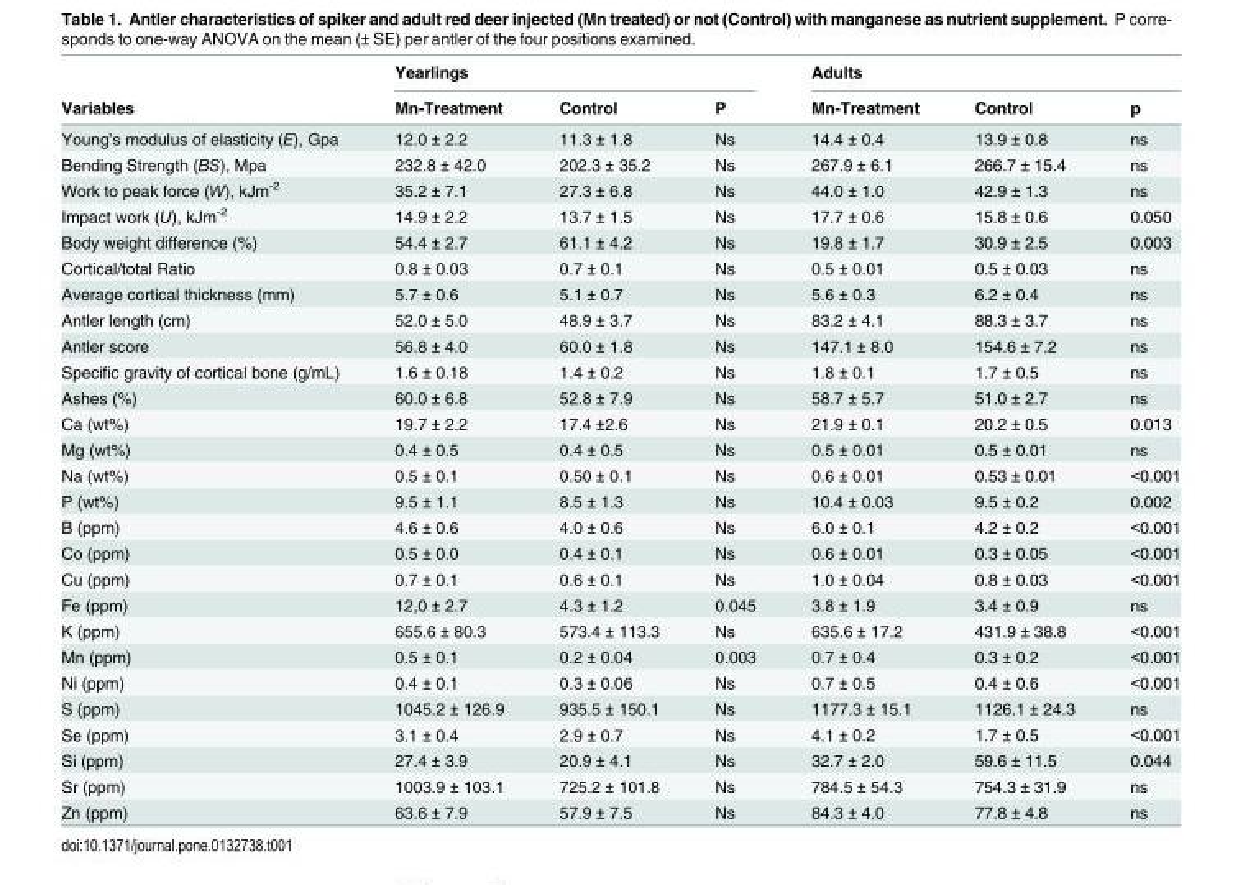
<table><thead><tr><td rowspan="2">Variables</td><td colspan="3">Yearlings</td><td colspan="3">Adults</td></tr><tr><td>Mn-Treatment</td><td>Control</td><td>P</td><td>Mn-Treatment</td><td>Control</td><td>p</td></tr></thead><tbody><tr><td>Young’s modulus of elasticity (E), Gpa</td><td>12.0 ± 2.2</td><td>11.3 ± 1.8</td><td>Ns</td><td>14.4 ± 0.4</td><td>13.9 ± 0.8</td><td>ns</td></tr><tr><td>Bending Strength (BS), Mpa</td><td>232.8 ± 42.0</td><td>202.3 ± 35.2</td><td>Ns</td><td>267.9 ± 6.1</td><td>266.7 ± 15.4</td><td>ns</td></tr><tr><td>Work to peak force (W), kJm<sup>-2</sup></td><td>35.2 ± 7.1</td><td>27.3 ± 6.8</td><td>Ns</td><td>44.0 ± 1.0</td><td>42.9 ± 1.3</td><td>ns</td></tr><tr><td>Impact work (U), kJm<sup>-2</sup></td><td>14.9 ± 2.2</td><td>13.7 ± 1.5</td><td>Ns</td><td>17.7 ± 0.6</td><td>15.8 ± 0.6</td><td>0.050</td></tr><tr><td>Body weight difference (%)</td><td>54.4 ± 2.7</td><td>61.1 ± 4.2</td><td>Ns</td><td>19.8 ± 1.7</td><td>30.9 ± 2.5</td><td>0.003</td></tr><tr><td>Cortical/total Ratio</td><td>0.8 ± 0.03</td><td>0.7 ± 0.1</td><td>Ns</td><td>0.5 ± 0.01</td><td>0.5 ± 0.03</td><td>ns</td></tr><tr><td>Average cortical thickness (mm)</td><td>5.7 ± 0.6</td><td>5.1 ± 0.7</td><td>Ns</td><td>5.6 ± 0.3</td><td>6.2 ± 0.4</td><td>ns</td></tr><tr><td>Antler length (cm)</td><td>52.0 ± 5.0</td><td>48.9 ± 3.7</td><td>Ns</td><td>83.2 ± 4.1</td><td>88.3 ± 3.7</td><td>ns</td></tr><tr><td>Antler score</td><td>56.8 ± 4.0</td><td>60.0 ± 1.8</td><td>Ns</td><td>147.1 ± 8.0</td><td>154.6 ± 7.2</td><td>ns</td></tr><tr><td>Specific gravity of cortical bone (g/mL)</td><td>1.6 ± 0.18</td><td>1.4 ± 0.2</td><td>Ns</td><td>1.8 ± 0.1</td><td>1.7 ± 0.5</td><td>ns</td></tr><tr><td>Ashes (%)</td><td>60.0 ± 6.8</td><td>52.8 ± 7.9</td><td>Ns</td><td>58.7 ± 5.7</td><td>51.0 ± 2.7</td><td>ns</td></tr><tr><td>Ca (wt%)</td><td>19.7 ± 2.2</td><td>17.4 ±2.6</td><td>Ns</td><td>21.9 ± 0.1</td><td>20.2 ± 0.5</td><td>0.013</td></tr><tr><td>Mg (wt%)</td><td>0.4 ± 0.5</td><td>0.4 ± 0.5</td><td>Ns</td><td>0.5 ± 0.01</td><td>0.5 ± 0.01</td><td>ns</td></tr><tr><td>Na (wt%)</td><td>0.5 ± 0.1</td><td>0.50 ± 0.1</td><td>Ns</td><td>0.6 ± 0.01</td><td>0.53 ± 0.01</td><td>&lt;0.001</td></tr><tr><td>P (wt%)</td><td>9.5 ± 1.1</td><td>8.5 ± 1.3</td><td>Ns</td><td>10.4 ± 0.03</td><td>9.5 ± 0.2</td><td>0.002</td></tr><tr><td>B (ppm)</td><td>4.6 ± 0.6</td><td>4.0 ± 0.6</td><td>Ns</td><td>6.0 ± 0.1</td><td>4.2 ± 0.2</td><td>&lt;0.001</td></tr><tr><td>Co (ppm)</td><td>0.5 ± 0.0</td><td>0.4 ± 0.1</td><td>Ns</td><td>0.6 ± 0.01</td><td>0.3 ± 0.05</td><td>&lt;0.001</td></tr><tr><td>Cu (ppm)</td><td>0.7 ± 0.1</td><td>0.6 ± 0.1</td><td>Ns</td><td>1.0 ± 0.04</td><td>0.8 ± 0.03</td><td>&lt;0.001</td></tr><tr><td>Fe (ppm)</td><td>12,0 ± 2.7</td><td>4.3 ± 1.2</td><td>0.045</td><td>3.8 ± 1.9</td><td>3.4 ± 0.9</td><td>ns</td></tr><tr><td>K (ppm)</td><td>655.6 ± 80.3</td><td>573.4 ± 113.3</td><td>Ns</td><td>635.6 ± 17.2</td><td>431.9 ± 38.8</td><td>&lt;0.001</td></tr><tr><td>Mn (ppm)</td><td>0.5 ± 0.1</td><td>0.2 ± 0.04</td><td>0.003</td><td>0.7 ± 0.4</td><td>0.3 ± 0.2</td><td>&lt;0.001</td></tr><tr><td>Ni (ppm)</td><td>0.4 ± 0.1</td><td>0.3 ± 0.06</td><td>Ns</td><td>0.7 ± 0.5</td><td>0.4 ± 0.6</td><td>&lt;0.001</td></tr><tr><td>S (ppm)</td><td>1045.2 ± 126.9</td><td>935.5 ± 150.1</td><td>Ns</td><td>1177.3 ± 15.1</td><td>1126.1 ± 24.3</td><td>ns</td></tr><tr><td>Se (ppm)</td><td>3.1 ± 0.4</td><td>2.9 ± 0.7</td><td>Ns</td><td>4.1 ± 0.2</td><td>1.7 ± 0.5</td><td>&lt;0.001</td></tr><tr><td>Si (ppm)</td><td>27.4 ± 3.9</td><td>20.9 ± 4.1</td><td>Ns</td><td>32.7 ± 2.0</td><td>59.6 ± 11.5</td><td>0.044</td></tr><tr><td>Sr (ppm)</td><td>1003.9 ± 103.1</td><td>725.2 ± 101.8</td><td>Ns</td><td>784.5 ± 54.3</td><td>754.3 ± 31.9</td><td>ns</td></tr><tr><td>Zn (ppm)</td><td>63.6 ± 7.9</td><td>57.9 ± 7.5</td><td>Ns</td><td>84.3 ± 4.0</td><td>77.8 ± 4.8</td><td>ns</td></tr></tbody></table>